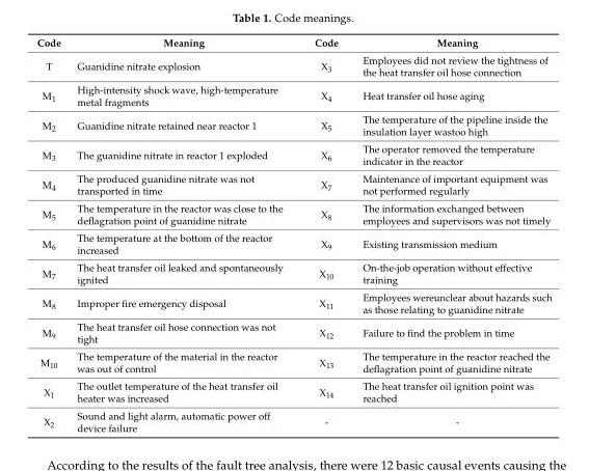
<table><thead><tr><td>Code</td><td>Meaning</td><td>Code</td><td>Meaning</td></tr></thead><tbody><tr><td>T</td><td>Guanidine nitrate explosion</td><td>X<sub>3</sub></td><td>Employees did not review the tightness of the heat transfer oil hose connection</td></tr><tr><td>M<sub>1</sub></td><td>High-intensity shock wave, high-temperature metal fragments</td><td>X<sub>4</sub></td><td>Heat transfer oil hose aging</td></tr><tr><td>M<sub>2</sub></td><td>Guanidine nitrate retained near reactor 1</td><td>X<sub>5</sub></td><td>The temperature of the pipeline inside the insulation layer wastoo high</td></tr><tr><td>M<sub>3</sub></td><td>The guanidine nitrate in reactor 1 exploded</td><td>X<sub>6</sub></td><td>The operator removed the temperature indicator in the reactor</td></tr><tr><td>M<sub>4</sub></td><td>The produced guanidine nitrate was not transported in time</td><td>X<sub>7</sub></td><td>Maintenance of important equipment was not performed regularly</td></tr><tr><td>M<sub>5</sub></td><td>The temperature in the reactor was close to the deflagration point of guanidine nitrate</td><td>X<sub>8</sub></td><td>The information exchanged between employees and supervisors was not timely</td></tr><tr><td>M<sub>6</sub></td><td>The temperature at the bottom of the reactor increased</td><td>X<sub>9</sub></td><td>Existing transmission medium</td></tr><tr><td>M<sub>7</sub></td><td>The heat transfer oil leaked and spontaneously ignited</td><td>X<sub>10</sub></td><td>On-the-job operation without effective training</td></tr><tr><td>M<sub>8</sub></td><td>Improper fire emergency disposal</td><td>X<sub>11</sub></td><td>Employees wereunclear about hazards such as those relating to guanidine nitrate</td></tr><tr><td>M<sub>9</sub></td><td>The heat transfer oil hose connection was not tight</td><td>X<sub>12</sub></td><td>Failure to find the problem in time</td></tr><tr><td>M<sub>10</sub></td><td>The temperature of the material in the reactor was out of control</td><td>X<sub>13</sub></td><td>The temperature in the reactor reached the deflagration point of guanidine nitrate</td></tr><tr><td>X<sub>1</sub></td><td>The outlet temperature of the heat transfer oil heater was increased</td><td>X<sub>14</sub></td><td>The heat transfer oil ignition point was reached</td></tr><tr><td>X<sub>2</sub></td><td>Sound and light alarm, automatic power off device failure</td><td>-</td><td>-</td></tr></tbody></table>